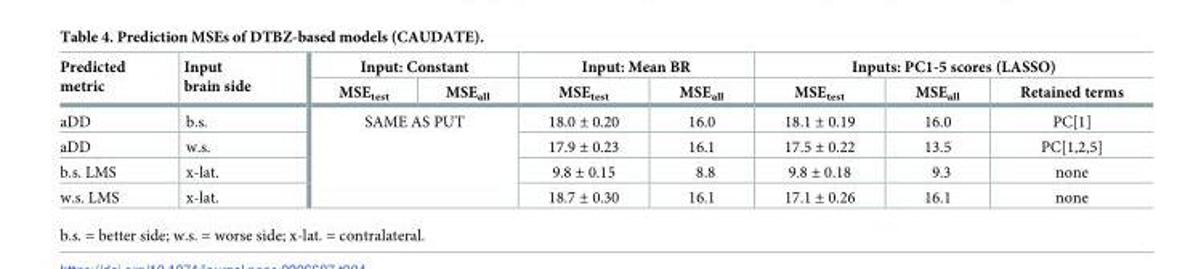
<table><thead><tr><td rowspan="2">Predicted metric</td><td rowspan="2">Input brain side</td><td colspan="2">Input: Constant</td><td colspan="2">Input: Mean BR</td><td colspan="3">Inputs: PC1-5 scores (LASSO)</td></tr><tr><td>MSE<sub>test</sub></td><td>MSE<sub>all</sub></td><td>MSE<sub>test</sub></td><td>MSE<sub>all</sub></td><td>MSE<sub>test</sub></td><td>MSE<sub>all</sub></td><td>Retained terms</td></tr></thead><tbody><tr><td>aDD</td><td>b.s.</td><td rowspan="4" colspan="2">SAME AS PUT</td><td>18.0 ± 0.20</td><td>16.0</td><td>18.1 ± 0.19</td><td>16.0</td><td>PC[1]</td></tr><tr><td>aDD</td><td>w.s.</td><td>17.9 ± 0.23</td><td>16.1</td><td>17.5 ± 0.22</td><td>13.5</td><td>PC[1,2,5]</td></tr><tr><td>b.s. LMS</td><td>x-lat.</td><td>9.8 ± 0.15</td><td>8.8</td><td>9.8 ± 0.18</td><td>9.3</td><td>none</td></tr><tr><td>w.s. LMS</td><td>x-lat.</td><td>18.7 ± 0.30</td><td>16.1</td><td>17.1 ± 0.26</td><td>16.1</td><td>none</td></tr></tbody></table>